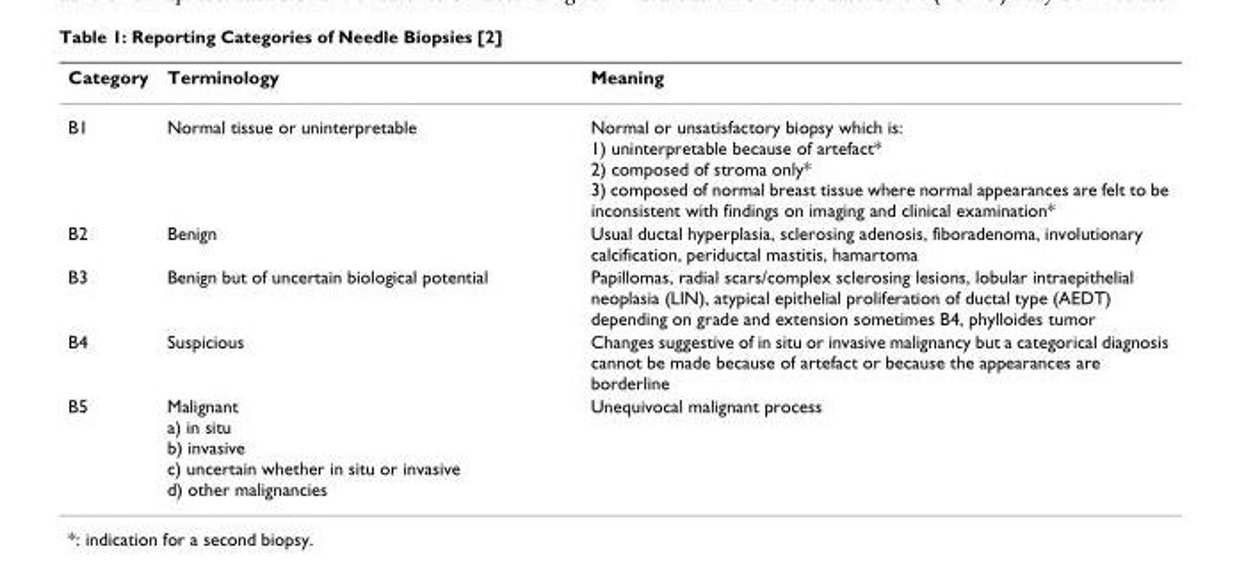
<table><thead><tr><td>Category</td><td>Terminology</td><td>Meaning</td></tr></thead><tbody><tr><td>B1</td><td>Normal tissue or uninterpretable</td><td>Normal or unsatisfactory biopsy which is: 1) uninterpretable because of artefact* 2) composed of stroma only* 3) composed of normal breast tissue where normal appearances are felt to be inconsistent with findings on imaging and clinical examination*</td></tr><tr><td>B2</td><td>Benign</td><td>Usual ductal hyperplasia, sclerosing adenosis, fiboradenoma, involutionary calcification, periductal mastitis, hamartoma</td></tr><tr><td>B3</td><td>Benign but of uncertain biological potential</td><td>Papillomas, radial scars/complex sclerosing lesions, lobular intraepithelial neoplasia (LIN), atypical epithelial proliferation of ductal type (AEDT) depending on grade and extension sometimes B4, phylloides tumor</td></tr><tr><td>B4</td><td>Suspicious</td><td>Changes suggestive of in situ or invasive malignancy but a categorical diagnosis cannot be made because of artefact or because the appearances are borderline</td></tr><tr><td>B5</td><td>Malignant a) in situ b) invasive c) uncertain whether in situ or invasive d) other malignancies</td><td>Unequivocal malignant process</td></tr></tbody></table>